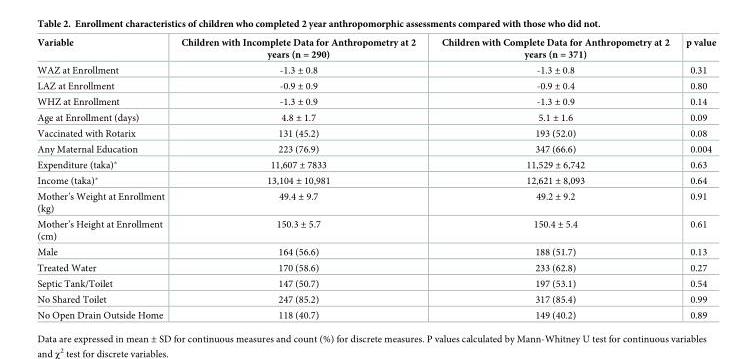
<table><thead><tr><td>Variable</td><td>Children with Incomplete Data for Anthropometry at 2 years (n = 290)</td><td>Children with Complete Data for Anthropometry at 2 years (n = 371)</td><td>p value</td></tr></thead><tbody><tr><td>WAZ at Enrollment</td><td>-1.3 ± 0.8</td><td>-1.3 ± 0.8</td><td>0.31</td></tr><tr><td>LAZ at Enrollment</td><td>-0.9 ± 0.9</td><td>-0.9 ± 0.4</td><td>0.80</td></tr><tr><td>WHZ at Enrollment</td><td>-1.3 ± 0.9</td><td>-1.3 ± 0.9</td><td>0.14</td></tr><tr><td>Age at Enrollment (days)</td><td>4.8 ± 1.7</td><td>5.1 ± 1.6</td><td>0.09</td></tr><tr><td>Vaccinated with Rotarix</td><td>131 (45.2)</td><td>193 (52.0)</td><td>0.08</td></tr><tr><td>Any Maternal Education</td><td>223 (76.9)</td><td>347 (66.6)</td><td>0.004</td></tr><tr><td>Expenditure (taka)*</td><td>11,607 ± 7833</td><td>11,529 ± 6,742</td><td>0.63</td></tr><tr><td>Income (taka)*</td><td>13,104 ± 10,981</td><td>12,621 ± 8,093</td><td>0.64</td></tr><tr><td>Mother’s Weight at Enrollment (kg)</td><td>49.4 ± 9.7</td><td>49.2 ± 9.2</td><td>0.91</td></tr><tr><td>Mother’s Height at Enrollment (cm)</td><td>150.3 ± 5.7</td><td>150.4 ± 5.4</td><td>0.61</td></tr><tr><td>Male</td><td>164 (56.6)</td><td>188 (51.7)</td><td>0.13</td></tr><tr><td>Treated Water</td><td>170 (58.6)</td><td>233 (62.8)</td><td>0.27</td></tr><tr><td>Septic Tank/Toilet</td><td>147 (50.7)</td><td>197 (53.1)</td><td>0.54</td></tr><tr><td>No Shared Toilet</td><td>247 (85.2)</td><td>317 (85.4)</td><td>0.99</td></tr><tr><td>No Open Drain Outside Home</td><td>118 (40.7)</td><td>149 (40.2)</td><td>0.89</td></tr></tbody></table>